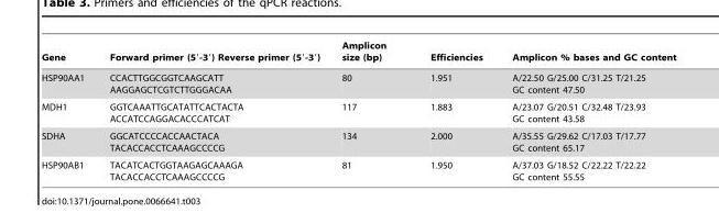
<table><thead><tr><td>Gene</td><td>Forward primer (5′-3′) Reverse primer (5′-3′)</td><td>Amplicon size (bp)</td><td>Efficiencies</td><td>Amplicon % bases and GC content</td></tr></thead><tbody><tr><td>HSP90AA1</td><td>CCACTTGGCGGTCAAGCATT AAGGAGCTCGTCTTGGGACAA</td><td>80</td><td>1.951</td><td>A/22.50 G/25.00 C/31.25 T/21.25 GC content 47.50</td></tr><tr><td>MDH1</td><td>GGTCAAATTGCATATTCACTACTA ACCATCCAGGACACCCATCAT</td><td>117</td><td>1.883</td><td>A/23.07 G/20.51 C/32.48 T/23.93 GC content 43.58</td></tr><tr><td>SDHA</td><td>GGCATCCCCACCAACTACA TACACCACCTCAAAGCCCCG</td><td>134</td><td>2.000</td><td>A/35.55 G/29.62 C/17.03 T/17.77 GC content 65.17</td></tr><tr><td>HSP90AB1</td><td>TACATCACTGGTAAGAGCAAAGA TACACCACCTCAAAGCCCCG</td><td>81</td><td>1.950</td><td>A/37.03 G/18.52 C/22.22 T/22.22 GC content 55.55</td></tr></tbody></table>